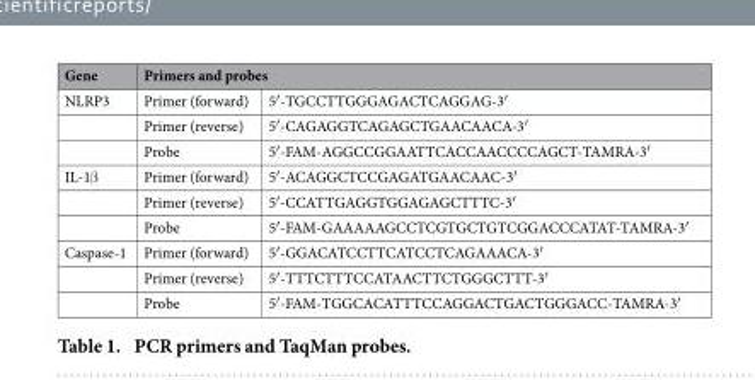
<table><thead><tr><td rowspan="2">Gene NLRP3</td><td colspan="2">Primers and probes</td></tr><tr><td>Primer (forward)</td><td>5′ -TGCCTTGGGAGACTCAGGAG-3′</td></tr></thead><tbody><tr><td></td><td>Primer (reverse)</td><td>5′ -CAGAGGTCAGAGCTGAACAACA-3′</td></tr><tr><td></td><td>Probe</td><td>5′ -FAM-AGGCCGGAATTCACCAACCCCAGCT-TAMRA-3′</td></tr><tr><td rowspan="3">IL-1β</td><td>Primer (forward)</td><td>5′ -ACAGGCTCCGAGATGAACAAC-3′</td></tr><tr><td>Primer (reverse)</td><td>5′ -CCATTGAGGTGGAGAGCTTTC-3′</td></tr><tr><td>Probe</td><td>5′ -FAM-GAAAAAGCCTCGTGCTGTCGGACCCATAT-TAMRA-3′</td></tr><tr><td rowspan="3">Caspase-1</td><td>Primer (forward)</td><td>5′ -GGACATCCTTCATCCTCAGAAACA-3′</td></tr><tr><td>Primer (reverse)</td><td>5′ -TTTCTTTCCATAACTTCTGGGCTTT-3′</td></tr><tr><td>Probe</td><td>5′ -FAM-TGGCACATTTCCAGGACTGACTGGGACC-TAMRA-3′</td></tr></tbody></table>